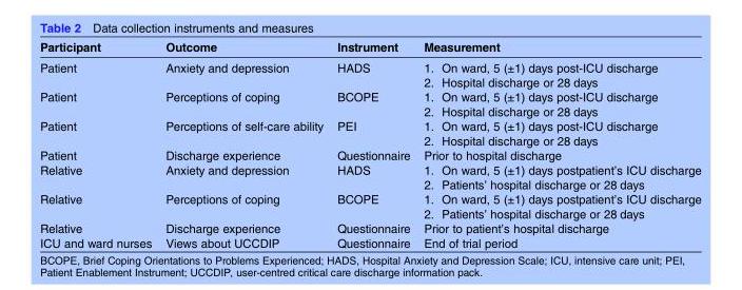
<table><thead><tr><td>Participant</td><td>Outcome</td><td>Instrument</td><td>Measurement</td></tr></thead><tbody><tr><td>Patient</td><td>Anxiety and depression</td><td>HADS</td><td>1. On ward, 5 (±1) days post-ICU discharge 2. Hospital discharge or 28 days</td></tr><tr><td>Patient</td><td>Perceptions of coping</td><td>BCOPE</td><td>1. On ward, 5 (±1) days post-ICU discharge 2. Hospital discharge or 28 days</td></tr><tr><td>Patient</td><td>Perceptions of self-care ability</td><td>PEI</td><td>1. On ward, 5 (±1) days post-ICU discharge 2. Hospital discharge or 28 days</td></tr><tr><td>Patient</td><td>Discharge experience</td><td>Questionnaire</td><td>Prior to hospital discharge</td></tr><tr><td>Relative</td><td>Anxiety and depression</td><td>HADS</td><td>1. On ward, 5 (±1) days postpatient’s ICU discharge 2. Patients’ hospital discharge or 28 days</td></tr><tr><td>Relative</td><td>Perceptions of coping</td><td>BCOPE</td><td>1. On ward, 5 (±1) days postpatient’s ICU discharge 2. Patients’ hospital discharge or 28 days</td></tr><tr><td>Relative</td><td>Discharge experience</td><td>Questionnaire</td><td>Prior to patient’s hospital discharge</td></tr><tr><td>ICU and ward nurses</td><td>Views about UCCDIP</td><td>Questionnaire</td><td>End of trial period</td></tr></tbody></table>